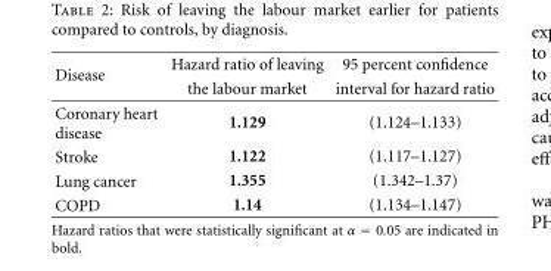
<table><thead><tr><td rowspan="2">Disease</td><td rowspan="2">Hazard ratio of leaving the labour market</td><td rowspan="2">95 percent confidence interval for hazard ratio</td></tr><tr></tr></thead><tbody><tr><td>Coronary heart disease</td><td>1.129</td><td>(1.124–1.133)</td></tr><tr><td>Stroke</td><td>1.122</td><td>(1.117–1.127)</td></tr><tr><td>Lung cancer</td><td>1.355</td><td>(1.342–1.37)</td></tr><tr><td>COPD</td><td>1.14</td><td>(1.134–1.147)</td></tr></tbody></table>